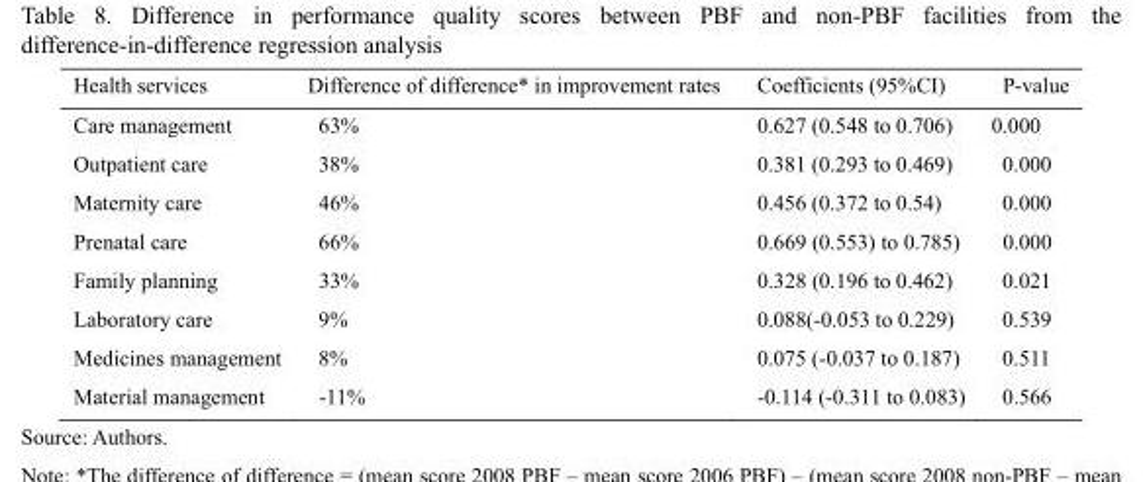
<table><thead><tr><td>Health services</td><td>Difference of difference* in improvement rates</td><td>Coefficients (95%CI)</td><td>P-value</td></tr></thead><tbody><tr><td>Care management</td><td>63%</td><td>0.627 (0.548 to 0.706)</td><td>0.000</td></tr><tr><td>Outpatient care</td><td>38%</td><td>0.381 (0.293 to 0.469)</td><td>0.000</td></tr><tr><td>Maternity care</td><td>46%</td><td>0.456 (0.372 to 0.54)</td><td>0.000</td></tr><tr><td>Prenatal care</td><td>66%</td><td>0.669 (0.553) to 0.785)</td><td>0.000</td></tr><tr><td>Family planning</td><td>33%</td><td>0.328 (0.196 to 0.462)</td><td>0.021</td></tr><tr><td>Laboratory care</td><td>9%</td><td>0.088(-0.053 to 0.229)</td><td>0.539</td></tr><tr><td>Medicines management</td><td>8%</td><td>0.075 (-0.037 to 0.187)</td><td>0.511</td></tr><tr><td>Material management</td><td>-11%</td><td>-0.114 (-0.311 to 0.083)</td><td>0.566</td></tr></tbody></table>